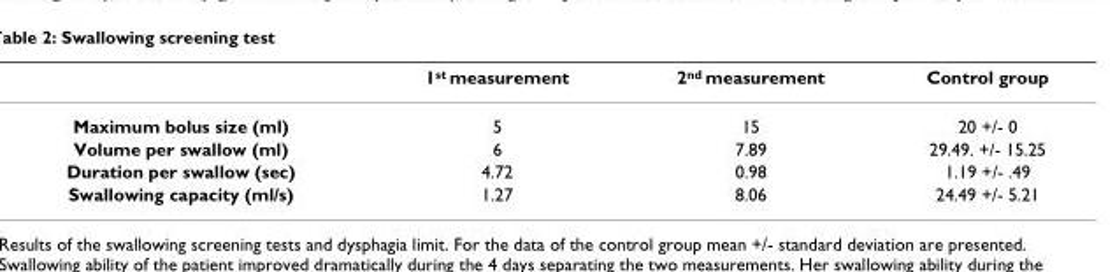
<table><thead><tr><td></td><td>1st measurement</td><td>2nd measurement</td><td>Control group</td></tr></thead><tbody><tr><td>Maximum bolus size (ml)</td><td>5</td><td>15</td><td>20 +/- 0</td></tr><tr><td>Volume per swallow (ml)</td><td>6</td><td>7.89</td><td>29.49. +/- 15.25</td></tr><tr><td>Duration per swallow (sec)</td><td>4.72</td><td>0.98</td><td>1.19 +/- .49</td></tr><tr><td>Swallowing capacity (ml/s)</td><td>1.27</td><td>8.06</td><td>24.49 +/- 5.21</td></tr></tbody></table>